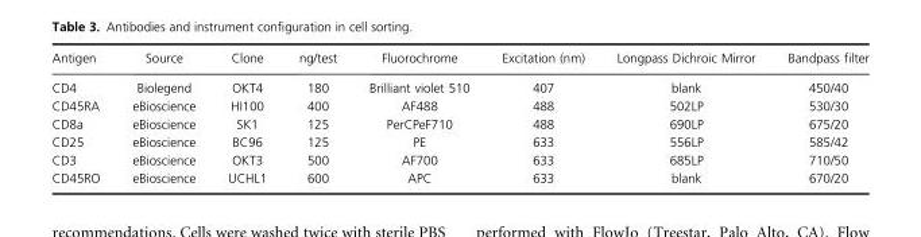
<table><thead><tr><td>Antigen</td><td>Source</td><td>Clone</td><td>ng/test</td><td>Fluorochrome</td><td>Excitation (nm)</td><td>Longpass Dichroic Mirror</td><td>Bandpass filter</td></tr></thead><tbody><tr><td>CD4</td><td>Biolegend</td><td>OKT4</td><td>180</td><td>Brilliant violet 510</td><td>407</td><td>blank</td><td>450/40</td></tr><tr><td>CD45RA</td><td>eBioscience</td><td>HI100</td><td>400</td><td>AF488</td><td>488</td><td>502LP</td><td>530/30</td></tr><tr><td>CD8a</td><td>eBioscience</td><td>SK1</td><td>125</td><td>PerCPeF710</td><td>488</td><td>690LP</td><td>675/20</td></tr><tr><td>CD25</td><td>eBioscience</td><td>BC96</td><td>125</td><td>PE</td><td>633</td><td>556LP</td><td>585/42</td></tr><tr><td>CD3</td><td>eBioscience</td><td>OKT3</td><td>500</td><td>AF700</td><td>633</td><td>685LP</td><td>710/50</td></tr><tr><td>CD45RO</td><td>eBioscience</td><td>UCHL1</td><td>600</td><td>APC</td><td>633</td><td>blank</td><td>670/20</td></tr></tbody></table>